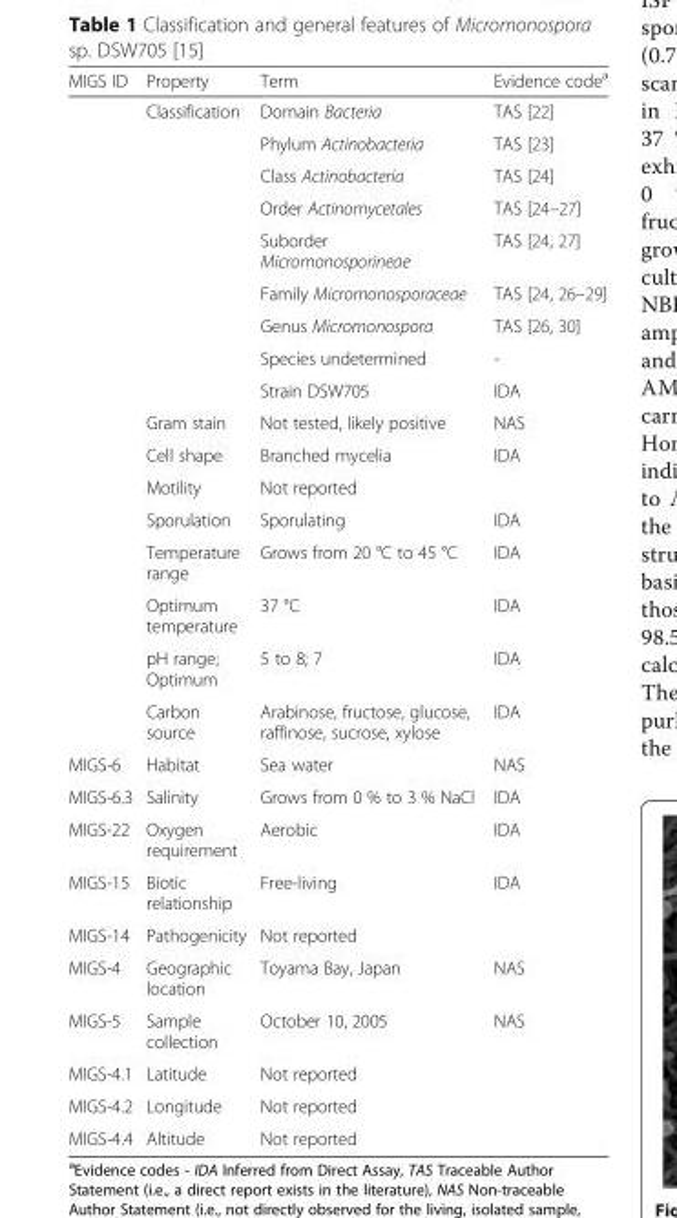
<table><thead><tr><td>MIGS ID</td><td>Property</td><td>Term</td><td>Evidence code<sup>a</sup></td></tr></thead><tbody><tr><td></td><td>Classification</td><td>Domain Bacteria</td><td>TAS [22]</td></tr><tr><td></td><td></td><td>Phylum Actinobacteria</td><td>TAS [23]</td></tr><tr><td></td><td></td><td>Class Actinobacteria</td><td>TAS [24]</td></tr><tr><td></td><td></td><td>Order Actinomycetales</td><td>TAS [24–27]</td></tr><tr><td></td><td></td><td>Suborder Micromonosporineae</td><td>TAS [24, 27]</td></tr><tr><td></td><td></td><td>Family Micromonosporaceae</td><td>TAS [24, 26–29]</td></tr><tr><td></td><td></td><td>Genus Micromonospora</td><td>TAS [26, 30]</td></tr><tr><td></td><td></td><td>Species undetermined</td><td>-</td></tr><tr><td></td><td></td><td>Strain DSW705</td><td>IDA</td></tr><tr><td></td><td>Gram stain</td><td>Not tested, likely positive</td><td>NAS</td></tr><tr><td></td><td>Cell shape</td><td>Branched mycelia</td><td>IDA</td></tr><tr><td></td><td>Motility</td><td>Not reported</td><td></td></tr><tr><td></td><td>Sporulation</td><td>Sporulating</td><td>IDA</td></tr><tr><td></td><td>Temperature range</td><td>Grows from 20 °C to 45 °C</td><td>IDA</td></tr><tr><td></td><td>Optimum temperature</td><td>37 °C</td><td>IDA</td></tr><tr><td></td><td>pH range; Optimum</td><td>5 to 8; 7</td><td>IDA</td></tr><tr><td></td><td>Carbon source</td><td>Arabinose, fructose, glucose, raffinose, sucrose, xylose</td><td>IDA</td></tr><tr><td>MIGS-6</td><td>Habitat</td><td>Sea water</td><td>NAS</td></tr><tr><td>MIGS-6.3</td><td>Salinity</td><td>Grows from 0 % to 3 % NaCl</td><td>IDA</td></tr><tr><td>MIGS-22</td><td>Oxygen requirement</td><td>Aerobic</td><td>IDA</td></tr><tr><td>MIGS-15</td><td>Biotic relationship</td><td>Free-living</td><td>IDA</td></tr><tr><td>MIGS-14</td><td>Pathogenicity</td><td>Not reported</td><td></td></tr><tr><td>MIGS-4</td><td>Geographic location</td><td>Toyama Bay, Japan</td><td>NAS</td></tr><tr><td>MIGS-5</td><td>Sample collection</td><td>October 10, 2005</td><td>NAS</td></tr><tr><td>MIGS-4.1</td><td>Latitude</td><td>Not reported</td><td></td></tr><tr><td>MIGS-4.2</td><td>Longitude</td><td>Not reported</td><td></td></tr><tr><td>MIGS-4.4</td><td>Altitude</td><td>Not reported</td><td></td></tr></tbody></table>